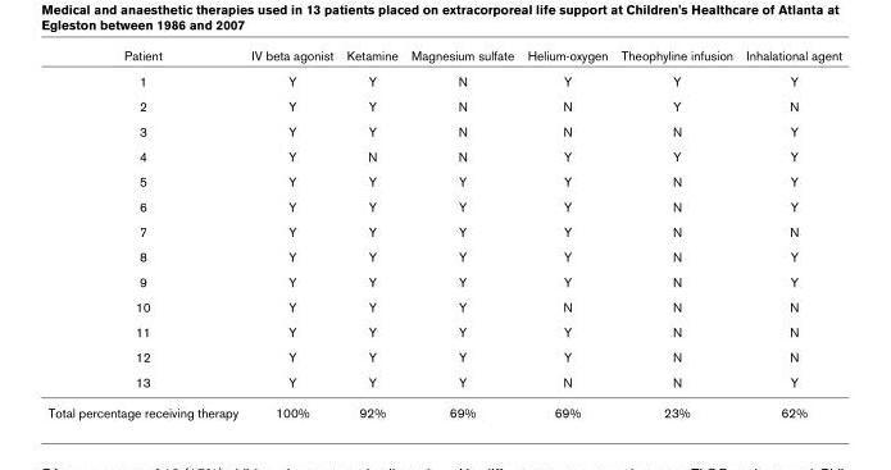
<table><thead><tr><td>Patient</td><td>IV beta agonist</td><td>Ketamine</td><td>Magnesium sulfate</td><td>Helium-oxygen</td><td>Theophyline infusion</td><td>Inhalational agent</td></tr></thead><tbody><tr><td>1</td><td>Y</td><td>Y</td><td>N</td><td>Y</td><td>Y</td><td>Y</td></tr><tr><td>2</td><td>Y</td><td>Y</td><td>N</td><td>N</td><td>Y</td><td>N</td></tr><tr><td>3</td><td>Y</td><td>Y</td><td>N</td><td>N</td><td>N</td><td>Y</td></tr><tr><td>4</td><td>Y</td><td>N</td><td>N</td><td>Y</td><td>Y</td><td>Y</td></tr><tr><td>5</td><td>Y</td><td>Y</td><td>Y</td><td>Y</td><td>N</td><td>Y</td></tr><tr><td>6</td><td>Y</td><td>Y</td><td>Y</td><td>Y</td><td>N</td><td>Y</td></tr><tr><td>7</td><td>Y</td><td>Y</td><td>Y</td><td>Y</td><td>N</td><td>N</td></tr><tr><td>8</td><td>Y</td><td>Y</td><td>Y</td><td>Y</td><td>N</td><td>Y</td></tr><tr><td>9</td><td>Y</td><td>Y</td><td>Y</td><td>Y</td><td>N</td><td>Y</td></tr><tr><td>10</td><td>Y</td><td>Y</td><td>Y</td><td>N</td><td>N</td><td>N</td></tr><tr><td>11</td><td>Y</td><td>Y</td><td>Y</td><td>Y</td><td>N</td><td>N</td></tr><tr><td>12</td><td>Y</td><td>Y</td><td>Y</td><td>Y</td><td>N</td><td>N</td></tr><tr><td>13</td><td>Y</td><td>Y</td><td>Y</td><td>N</td><td>N</td><td>Y</td></tr><tr><td>Total percentage receiving therapy</td><td>100%</td><td>92%</td><td>69%</td><td>69%</td><td>23%</td><td>62%</td></tr></tbody></table>